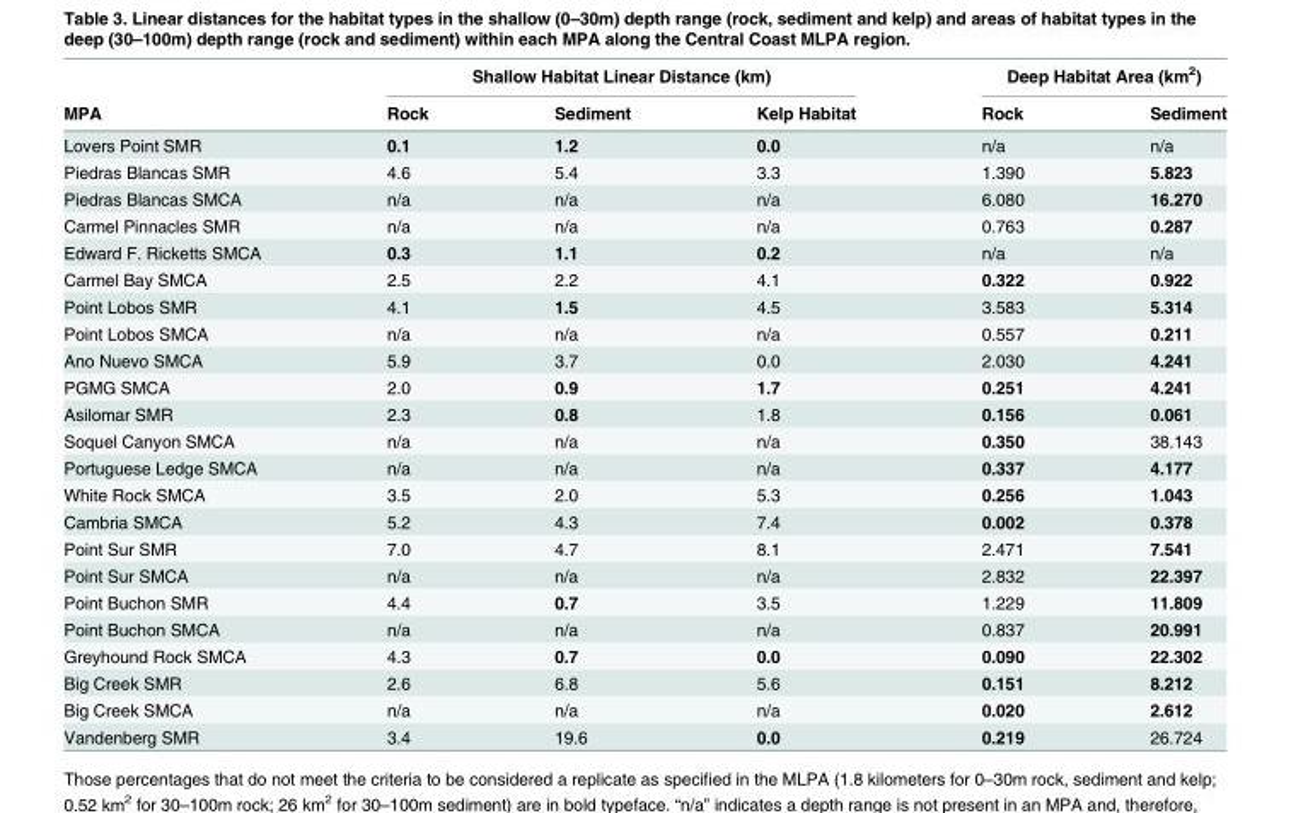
<table><thead><tr><td rowspan="2">MPA</td><td colspan="3">Shallow Habitat Linear Distance (km)</td><td colspan="2">Deep Habitat Area (km<sup>2</sup>)</td></tr><tr><td>Rock</td><td>Sediment</td><td>Kelp Habitat</td><td>Rock</td><td>Sediment</td></tr></thead><tbody><tr><td>Lovers Point SMR</td><td>0.1</td><td>1.2</td><td>0.0</td><td>n/a</td><td>n/a</td></tr><tr><td>Piedras Blancas SMR</td><td>4.6</td><td>5.4</td><td>3.3</td><td>1.390</td><td>5.823</td></tr><tr><td>Piedras Blancas SMCA</td><td>n/a</td><td>n/a</td><td>n/a</td><td>6.080</td><td>16.270</td></tr><tr><td>Carmel Pinnacles SMR</td><td>n/a</td><td>n/a</td><td>n/a</td><td>0.763</td><td>0.287</td></tr><tr><td>Edward F. Ricketts SMCA</td><td>0.3</td><td>1.1</td><td>0.2</td><td>n/a</td><td>n/a</td></tr><tr><td>Carmel Bay SMCA</td><td>2.5</td><td>2.2</td><td>4.1</td><td>0.322</td><td>0.922</td></tr><tr><td>Point Lobos SMR</td><td>4.1</td><td>1.5</td><td>4.5</td><td>3.583</td><td>5.314</td></tr><tr><td>Point Lobos SMCA</td><td>n/a</td><td>n/a</td><td>n/a</td><td>0.557</td><td>0.211</td></tr><tr><td>Ano Nuevo SMCA</td><td>5.9</td><td>3.7</td><td>0.0</td><td>2.030</td><td>4.241</td></tr><tr><td>PGMG SMCA</td><td>2.0</td><td>0.9</td><td>1.7</td><td>0.251</td><td>4.241</td></tr><tr><td>Asilomar SMR</td><td>2.3</td><td>0.8</td><td>1.8</td><td>0.156</td><td>0.061</td></tr><tr><td>Soquel Canyon SMCA</td><td>n/a</td><td>n/a</td><td>n/a</td><td>0.350</td><td>38.143</td></tr><tr><td>Portuguese Ledge SMCA</td><td>n/a</td><td>n/a</td><td>n/a</td><td>0.337</td><td>4.177</td></tr><tr><td>White Rock SMCA</td><td>3.5</td><td>2.0</td><td>5.3</td><td>0.256</td><td>1.043</td></tr><tr><td>Cambria SMCA</td><td>5.2</td><td>4.3</td><td>7.4</td><td>0.002</td><td>0.378</td></tr><tr><td>Point Sur SMR</td><td>7.0</td><td>4.7</td><td>8.1</td><td>2.471</td><td>7.541</td></tr><tr><td>Point Sur SMCA</td><td>n/a</td><td>n/a</td><td>n/a</td><td>2.832</td><td>22.397</td></tr><tr><td>Point Buchon SMR</td><td>4.4</td><td>0.7</td><td>3.5</td><td>1.229</td><td>11.809</td></tr><tr><td>Point Buchon SMCA</td><td>n/a</td><td>n/a</td><td>n/a</td><td>0.837</td><td>20.991</td></tr><tr><td>Greyhound Rock SMCA</td><td>4.3</td><td>0.7</td><td>0.0</td><td>0.090</td><td>22.302</td></tr><tr><td>Big Creek SMR</td><td>2.6</td><td>6.8</td><td>5.6</td><td>0.151</td><td>8.212</td></tr><tr><td>Big Creek SMCA</td><td>n/a</td><td>n/a</td><td>n/a</td><td>0.020</td><td>2.612</td></tr><tr><td>Vandenberg SMR</td><td>3.4</td><td>19.6</td><td>0.0</td><td>0.219</td><td>26.724</td></tr></tbody></table>